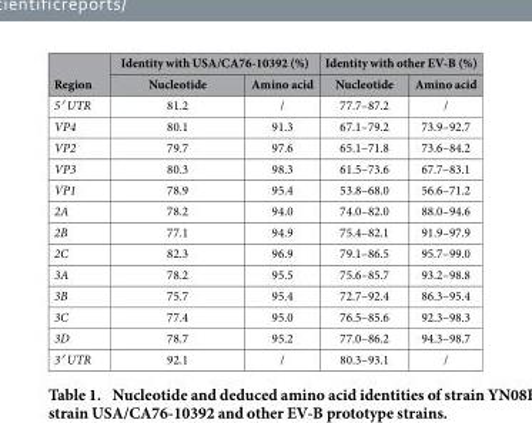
<table><thead><tr><td rowspan="2">Region</td><td colspan="2">Identity with USA/CA76-10392 (%)</td><td colspan="2">Identity with other EV-B (%)</td></tr><tr><td>Nucleotide</td><td>Amino acid</td><td>Nucleotide</td><td>Amino acid</td></tr></thead><tbody><tr><td>5′ UTR</td><td>81.2</td><td>/</td><td>77.7–87.2</td><td>/</td></tr><tr><td>VP4</td><td>80.1</td><td>91.3</td><td>67.1–79.2</td><td>73.9–92.7</td></tr><tr><td>VP2</td><td>79.7</td><td>97.6</td><td>65.1–71.8</td><td>73.6–84.2</td></tr><tr><td>VP3</td><td>80.3</td><td>98.3</td><td>61.5–73.6</td><td>67.7–83.1</td></tr><tr><td>VP1</td><td>78.9</td><td>95.4</td><td>53.8–68.0</td><td>56.6–71.2</td></tr><tr><td>2A</td><td>78.2</td><td>94.0</td><td>74.0–82.0</td><td>88.0–94.6</td></tr><tr><td>2B</td><td>77.1</td><td>94.9</td><td>75.4–82.1</td><td>91.9–97.9</td></tr><tr><td>2C</td><td>82.3</td><td>96.9</td><td>79.1–86.5</td><td>95.7–99.0</td></tr><tr><td>3A</td><td>78.2</td><td>95.5</td><td>75.6–85.7</td><td>93.2–98.8</td></tr><tr><td>3B</td><td>75.7</td><td>95.4</td><td>72.7–92.4</td><td>86.3–95.4</td></tr><tr><td>3C</td><td>77.4</td><td>95.0</td><td>76.5–85.6</td><td>92.3–98.3</td></tr><tr><td>3D</td><td>78.7</td><td>95.2</td><td>77.0–86.2</td><td>94.3–98.7</td></tr><tr><td>3′ UTR</td><td>92.1</td><td>/</td><td>80.3–93.1</td><td>/</td></tr></tbody></table>